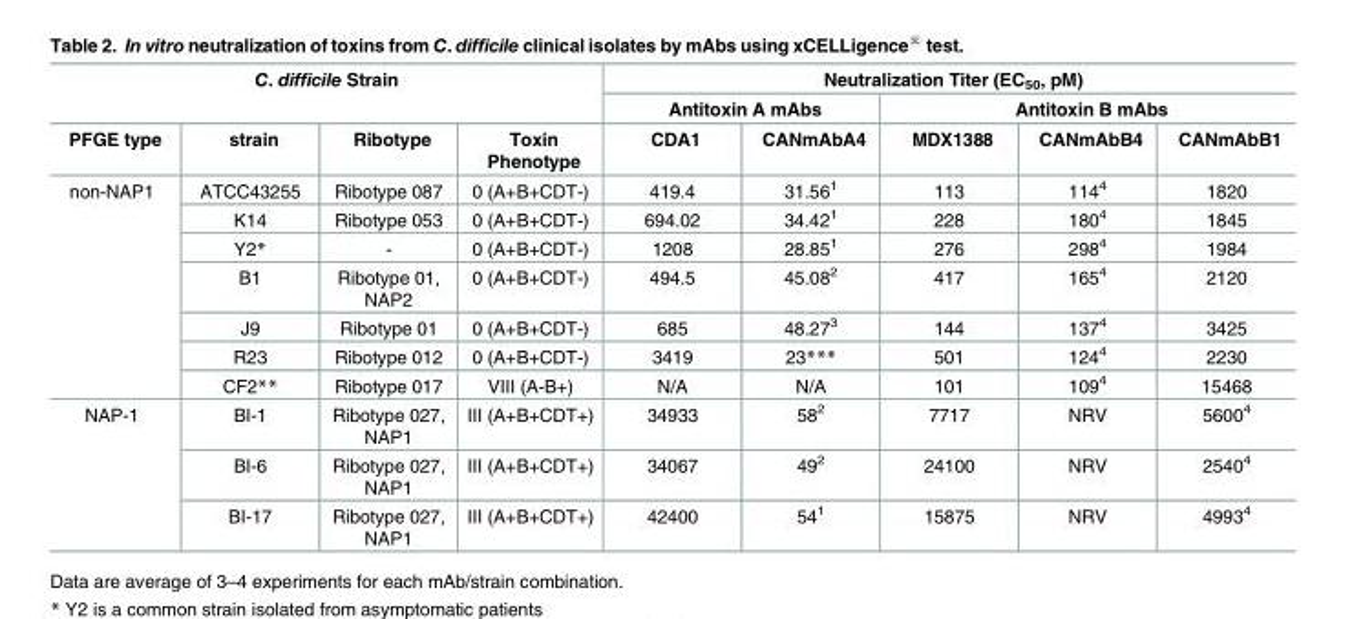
<table><thead><tr><td rowspan="2" colspan="4">C. difficile Strain</td><td colspan="5">Neutralization Titer (EC<sub>50</sub>, pM)</td></tr><tr><td colspan="2">Antitoxin A mAbs</td><td colspan="3">Antitoxin B mAbs</td></tr><tr><td>PFGE type</td><td>strain</td><td>Ribotype</td><td>Toxin Phenotype</td><td>CDA1</td><td>CANmAbA4</td><td>MDX1388</td><td>CANmAbB4</td><td>CANmAbB1</td></tr></thead><tbody><tr><td rowspan="7">non-NAP1</td><td>ATCC43255</td><td>Ribotype 087</td><td>0 (A+B+CDT-)</td><td>419.4</td><td>31.56<sup>1</sup></td><td>113</td><td>114<sup>4</sup></td><td>1820</td></tr><tr><td>K14</td><td>Ribotype 053</td><td>0 (A+B+CDT-)</td><td>694.02</td><td>34.42<sup>1</sup></td><td>228</td><td>180<sup>4</sup></td><td>1845</td></tr><tr><td>Y2*</td><td>-</td><td>0 (A+B+CDT-)</td><td>1208</td><td>28.85<sup>1</sup></td><td>276</td><td>298<sup>4</sup></td><td>1984</td></tr><tr><td>B1</td><td>Ribotype 01, NAP2</td><td>0 (A+B+CDT-)</td><td>494.5</td><td>45.08<sup>2</sup></td><td>417</td><td>165<sup>4</sup></td><td>2120</td></tr><tr><td>J9</td><td>Ribotype 01</td><td>0 (A+B+CDT-)</td><td>685</td><td>48.27<sup>3</sup></td><td>144</td><td>137<sup>4</sup></td><td>3425</td></tr><tr><td>R23</td><td>Ribotype 012</td><td>0 (A+B+CDT-)</td><td>3419</td><td>23***</td><td>501</td><td>124<sup>4</sup></td><td>2230</td></tr><tr><td>CF2**</td><td>Ribotype 017</td><td>VIII (A-B+)</td><td>N/A</td><td>N/A</td><td>101</td><td>109<sup>4</sup></td><td>15468</td></tr><tr><td rowspan="3">NAP-1</td><td>BI-1</td><td>Ribotype 027, NAP1</td><td>III (A+B+CDT+)</td><td>34933</td><td>58<sup>2</sup></td><td>7717</td><td>NRV</td><td>5600<sup>4</sup></td></tr><tr><td>BI-6</td><td>Ribotype 027, NAP1</td><td>III (A+B+CDT+)</td><td>34067</td><td>49<sup>2</sup></td><td>24100</td><td>NRV</td><td>2540<sup>4</sup></td></tr><tr><td>BI-17</td><td>Ribotype 027, NAP1</td><td>III (A+B+CDT+)</td><td>42400</td><td>54<sup>1</sup></td><td>15875</td><td>NRV</td><td>4993<sup>4</sup></td></tr></tbody></table>